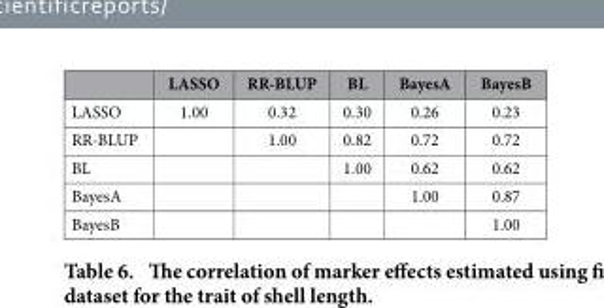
<table><thead><tr><td></td><td>LASSO</td><td>RR-BLUP</td><td>BL</td><td>BayesA</td><td>BayesB</td></tr></thead><tbody><tr><td>LASSO</td><td>1.00</td><td>0.32</td><td>0.30</td><td>0.26</td><td>0.23</td></tr><tr><td>RR-BLUP</td><td></td><td>1.00</td><td>0.82</td><td>0.72</td><td>0.72</td></tr><tr><td>BL</td><td></td><td></td><td>1.00</td><td>0.62</td><td>0.62</td></tr><tr><td>BayesA</td><td></td><td></td><td></td><td>1.00</td><td>0.87</td></tr><tr><td>BayesB</td><td></td><td></td><td></td><td></td><td>1.00</td></tr></tbody></table>